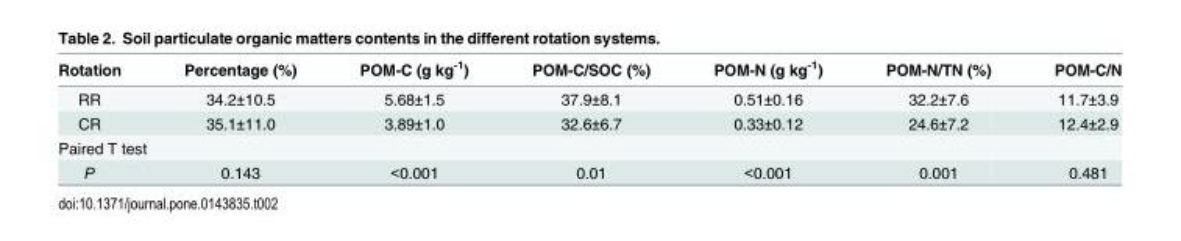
<table><thead><tr><td>Rotation</td><td>Percentage (%)</td><td>POM-C (g kg<sup>-1</sup>)</td><td>POM-C/SOC (%)</td><td>POM-N (g kg<sup>-1</sup>)</td><td>POM-N/TN (%)</td><td>POM-C/N</td></tr></thead><tbody><tr><td>RR</td><td>34.2±10.5</td><td>5.68±1.5</td><td>37.9±8.1</td><td>0.51±0.16</td><td>32.2±7.6</td><td>11.7±3.9</td></tr><tr><td>CR</td><td>35.1±11.0</td><td>3.89±1.0</td><td>32.6±6.7</td><td>0.33±0.12</td><td>24.6±7.2</td><td>12.4±2.9</td></tr><tr><td colspan="7">Paired T test</td></tr><tr><td>P</td><td>0.143</td><td>&lt;0.001</td><td>0.01</td><td>&lt;0.001</td><td>0.001</td><td>0.481</td></tr></tbody></table>